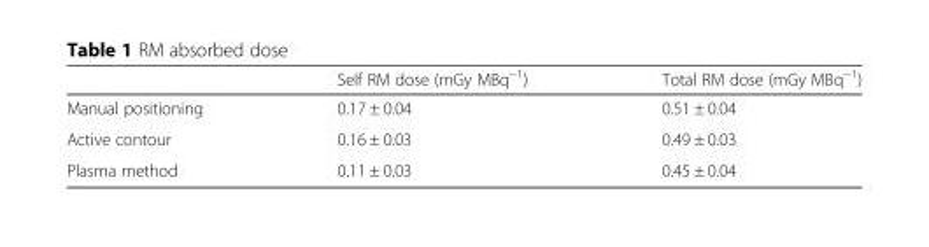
<table><thead><tr><td></td><td>Self RM dose (mGy MBq<sup>−1</sup>)</td><td>Total RM dose (mGy MBq<sup>−1</sup>)</td></tr></thead><tbody><tr><td>Manual positioning</td><td>0.17 ± 0.04</td><td>0.51 ± 0.04</td></tr><tr><td>Active contour</td><td>0.16 ± 0.03</td><td>0.49 ± 0.03</td></tr><tr><td>Plasma method</td><td>0.11 ± 0.03</td><td>0.45 ± 0.04</td></tr></tbody></table>